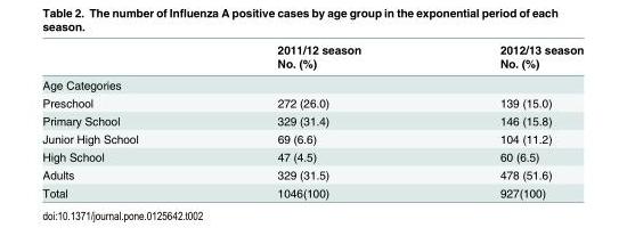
<table><thead><tr><td rowspan="2"></td><td rowspan="2">2011/12 season No. (%)</td><td rowspan="2">2012/13 season No. (%)</td></tr><tr></tr></thead><tbody><tr><td colspan="3">Age Categories</td></tr><tr><td>Preschool</td><td>272 (26.0)</td><td>139 (15.0)</td></tr><tr><td>Primary School</td><td>329 (31.4)</td><td>146 (15.8)</td></tr><tr><td>Junior High School</td><td>69 (6.6)</td><td>104 (11.2)</td></tr><tr><td>High School</td><td>47 (4.5)</td><td>60 (6.5)</td></tr><tr><td>Adults</td><td>329 (31.5)</td><td>478 (51.6)</td></tr><tr><td>Total</td><td>1046(100)</td><td>927(100)</td></tr></tbody></table>